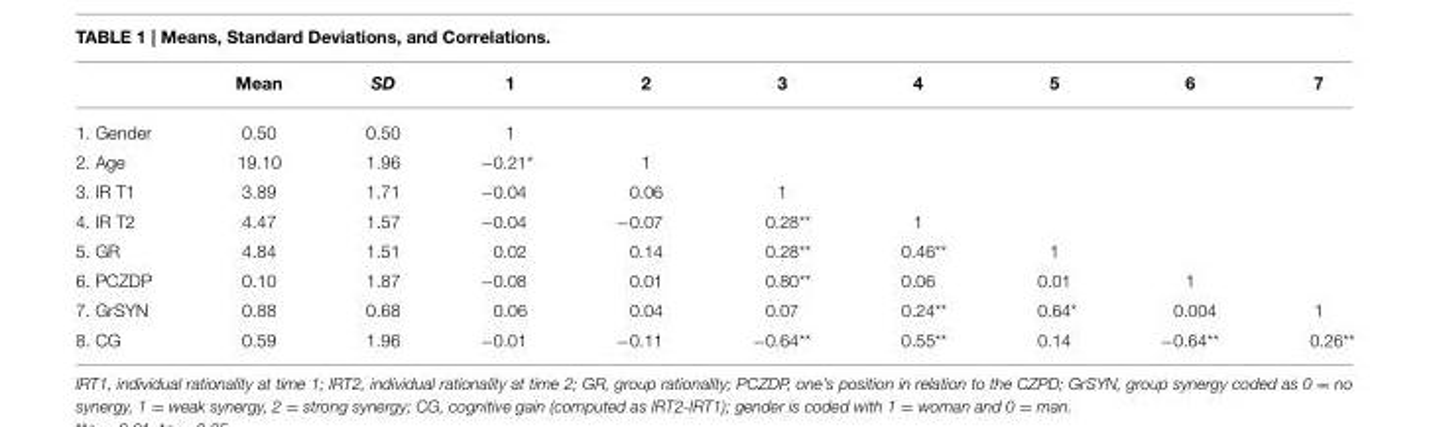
<table><thead><tr><td></td><td>Mean</td><td>SD</td><td>1</td><td>2</td><td>3</td><td>4</td><td>5</td><td>6</td><td>7</td></tr></thead><tbody><tr><td>1. Gender</td><td>0.50</td><td>0.50</td><td>1</td><td></td><td></td><td></td><td></td><td></td><td></td></tr><tr><td>2. Age</td><td>19.10</td><td>1.96</td><td>−0.21*</td><td>1</td><td></td><td></td><td></td><td></td><td></td></tr><tr><td>3. IR T1</td><td>3.89</td><td>1.71</td><td>−0.04</td><td>0.06</td><td>1</td><td></td><td></td><td></td><td></td></tr><tr><td>4. IR T2</td><td>4.47</td><td>1.57</td><td>−0.04</td><td>−0.07</td><td>0.28**</td><td>1</td><td></td><td></td><td></td></tr><tr><td>5. GR</td><td>4.84</td><td>1.51</td><td>0.02</td><td>0.14</td><td>0.28**</td><td>0.46**</td><td>1</td><td></td><td></td></tr><tr><td>6. PCZDP</td><td>0.10</td><td>1.87</td><td>−0.08</td><td>0.01</td><td>0.80**</td><td>0.06</td><td>0.01</td><td>1</td><td></td></tr><tr><td>7. GrSYN</td><td>0.88</td><td>0.68</td><td>0.06</td><td>0.04</td><td>0.07</td><td>0.24**</td><td>0.64*</td><td>0.004</td><td>1</td></tr><tr><td>8. CG</td><td>0.59</td><td>1.96</td><td>−0.01</td><td>−0.11</td><td>−0.64**</td><td>0.55**</td><td>0.14</td><td>−0.64**</td><td>0.26**</td></tr></tbody></table>